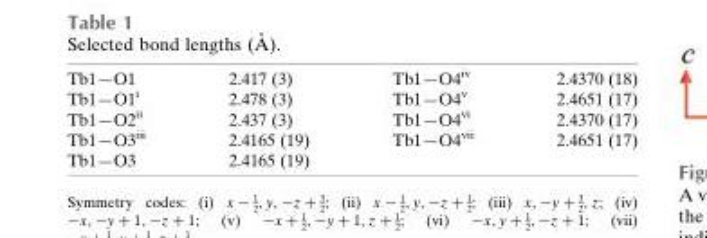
<table><tbody><tr><td>Tb1—O1</td><td>2.417 (3)</td><td>Tb1—O4<sup>iv</sup></td><td>2.4370 (18)</td></tr><tr><td>Tb1—O1<sup>i</sup></td><td>2.478 (3)</td><td>Tb1—O4<sup>v</sup></td><td>2.4651 (17)</td></tr><tr><td>Tb1—O2<sup>ii</sup></td><td>2.437 (3)</td><td>Tb1—O4<sup>vi</sup></td><td>2.4370 (17)</td></tr><tr><td>Tb1—O3<sup>iii</sup></td><td>2.4165 (19)</td><td>Tb1—O4<sup>vii</sup></td><td>2.4651 (17)</td></tr><tr><td>Tb1—O3</td><td>2.4165 (19)</td><td></td><td></td></tr></tbody></table>